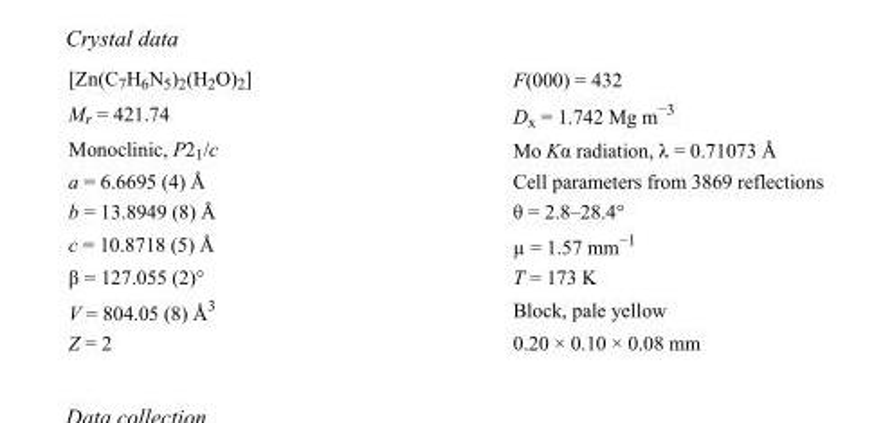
<table><tbody><tr><td>[Zn(C<sub>7</sub>H<sub>6</sub>N<sub>5</sub>)<sub>2</sub>(H<sub>2</sub>O)<sub>2</sub>]</td><td>F(000) = 432</td></tr><tr><td>M<sub>r</sub> = 421.74</td><td>D<sub>x</sub> = 1.742 Mg m<sup>−3</sup></td></tr><tr><td>Monoclinic, P2<sub>1</sub>/c</td><td>Mo Kα radiation, λ = 0.71073 Å</td></tr><tr><td>a = 6.6695 (4) Å</td><td>Cell parameters from 3869 reflections</td></tr><tr><td>b = 13.8949 (8) Å</td><td>θ = 2.8–28.4°</td></tr><tr><td>c = 10.8718 (5) Å</td><td>µ = 1.57 mm<sup>−1</sup></td></tr><tr><td>β = 127.055 (2)°</td><td>T = 173 K</td></tr><tr><td>V = 804.05 (8) Å<sup>3</sup></td><td>Block, pale yellow</td></tr><tr><td>Z = 2</td><td>0.20 × 0.10 × 0.08 mm</td></tr></tbody></table>